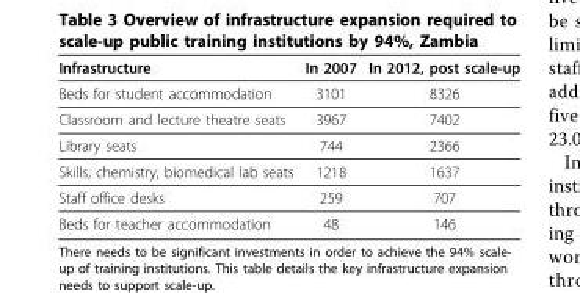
<table><thead><tr><td>Infrastructure</td><td>In 2007</td><td>In 2012, post scale-up</td></tr></thead><tbody><tr><td>Beds for student accommodation</td><td>3101</td><td>8326</td></tr><tr><td>Classroom and lecture theatre seats</td><td>3967</td><td>7402</td></tr><tr><td>Library seats</td><td>744</td><td>2366</td></tr><tr><td>Skills, chemistry, biomedical lab seats</td><td>1218</td><td>1637</td></tr><tr><td>Staff office desks</td><td>259</td><td>707</td></tr><tr><td>Beds for teacher accommodation</td><td>48</td><td>146</td></tr></tbody></table>